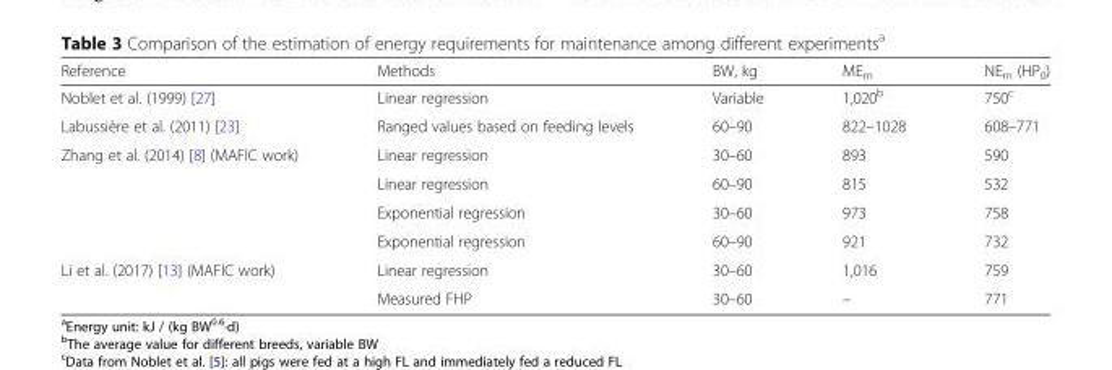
<table><thead><tr><td>Reference</td><td>Methods</td><td>BW, kg</td><td>ME<sub>m</sub></td><td>NE<sub>m</sub> (HP<sub>0</sub>)</td></tr></thead><tbody><tr><td>Noblet et al. (1999) [27]</td><td>Linear regression</td><td>Variable</td><td>1,020<sup>b</sup></td><td>750<sup>c</sup></td></tr><tr><td>Labussière et al. (2011) [23]</td><td>Ranged values based on feeding levels</td><td>60–90</td><td>822–1028</td><td>608–771</td></tr><tr><td rowspan="4">Zhang et al. (2014) [8] (MAFIC work)</td><td>Linear regression</td><td>30–60</td><td>893</td><td>590</td></tr><tr><td>Linear regression</td><td>60–90</td><td>815</td><td>532</td></tr><tr><td>Exponential regression</td><td>30–60</td><td>973</td><td>758</td></tr><tr><td>Exponential regression</td><td>60–90</td><td>921</td><td>732</td></tr><tr><td rowspan="2">Li et al. (2017) [13] (MAFIC work)</td><td>Linear regression</td><td>30–60</td><td>1,016</td><td>759</td></tr><tr><td>Measured FHP</td><td>30–60</td><td>–</td><td>771</td></tr></tbody></table>